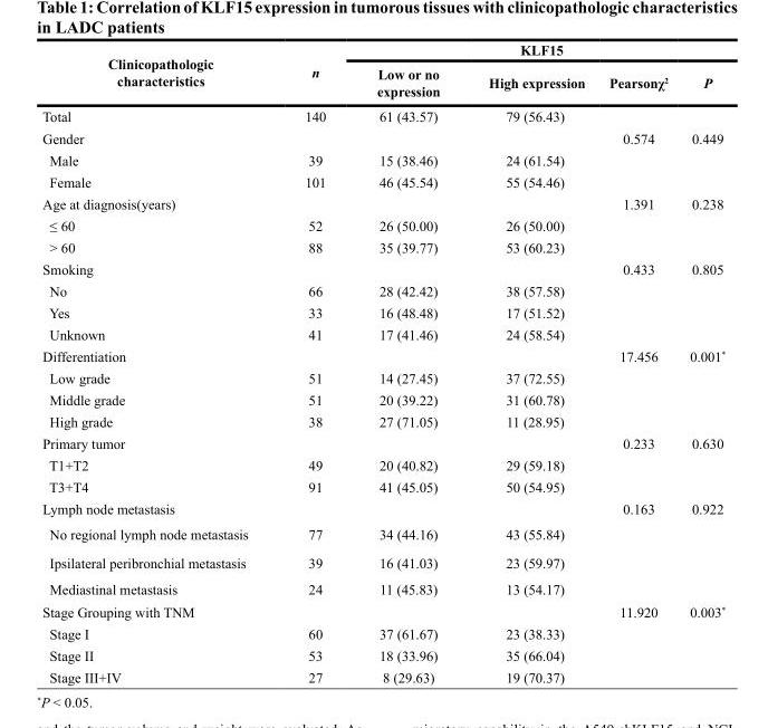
<table><thead><tr><td rowspan="2">Clinicopathologic characteristics</td><td rowspan="2">n</td><td colspan="4">KLF15</td></tr><tr><td>Low or no expression</td><td>High expression</td><td>Pearsonχ<sup>2</sup></td><td>P</td></tr></thead><tbody><tr><td>Total</td><td>140</td><td>61 (43.57)</td><td>79 (56.43)</td><td></td><td></td></tr><tr><td>Gender</td><td></td><td></td><td></td><td>0.574</td><td>0.449</td></tr><tr><td>Male</td><td>39</td><td>15 (38.46)</td><td>24 (61.54)</td><td></td><td></td></tr><tr><td>Female</td><td>101</td><td>46 (45.54)</td><td>55 (54.46)</td><td></td><td></td></tr><tr><td>Age at diagnosis(years)</td><td></td><td></td><td></td><td>1.391</td><td>0.238</td></tr><tr><td>≤ 60</td><td>52</td><td>26 (50.00)</td><td>26 (50.00)</td><td></td><td></td></tr><tr><td>&gt; 60</td><td>88</td><td>35 (39.77)</td><td>53 (60.23)</td><td></td><td></td></tr><tr><td>Smoking</td><td></td><td></td><td></td><td>0.433</td><td>0.805</td></tr><tr><td>No</td><td>66</td><td>28 (42.42)</td><td>38 (57.58)</td><td></td><td></td></tr><tr><td>Yes</td><td>33</td><td>16 (48.48)</td><td>17 (51.52)</td><td></td><td></td></tr><tr><td>Unknown</td><td>41</td><td>17 (41.46)</td><td>24 (58.54)</td><td></td><td></td></tr><tr><td>Differentiation</td><td></td><td></td><td></td><td>17.456</td><td>0.001*</td></tr><tr><td>Low grade</td><td>51</td><td>14 (27.45)</td><td>37 (72.55)</td><td></td><td></td></tr><tr><td>Middle grade</td><td>51</td><td>20 (39.22)</td><td>31 (60.78)</td><td></td><td></td></tr><tr><td>High grade</td><td>38</td><td>27 (71.05)</td><td>11 (28.95)</td><td></td><td></td></tr><tr><td>Primary tumor</td><td></td><td></td><td></td><td>0.233</td><td>0.630</td></tr><tr><td>T1+T2</td><td>49</td><td>20 (40.82)</td><td>29 (59.18)</td><td></td><td></td></tr><tr><td>T3+T4</td><td>91</td><td>41 (45.05)</td><td>50 (54.95)</td><td></td><td></td></tr><tr><td>Lymph node metastasis</td><td></td><td></td><td></td><td>0.163</td><td>0.922</td></tr><tr><td>No regional lymph node metastasis</td><td>77</td><td>34 (44.16)</td><td>43 (55.84)</td><td></td><td></td></tr><tr><td>Ipsilateral peribronchial metastasis</td><td>39</td><td>16 (41.03)</td><td>23 (59.97)</td><td></td><td></td></tr><tr><td>Mediastinal metastasis</td><td>24</td><td>11 (45.83)</td><td>13 (54.17)</td><td></td><td></td></tr><tr><td>Stage Grouping with TNM</td><td></td><td></td><td></td><td>11.920</td><td>0.003*</td></tr><tr><td>Stage I</td><td>60</td><td>37 (61.67)</td><td>23 (38.33)</td><td></td><td></td></tr><tr><td>Stage II</td><td>53</td><td>18 (33.96)</td><td>35 (66.04)</td><td></td><td></td></tr><tr><td>Stage III+IV</td><td>27</td><td>8 (29.63)</td><td>19 (70.37)</td><td></td><td></td></tr></tbody></table>